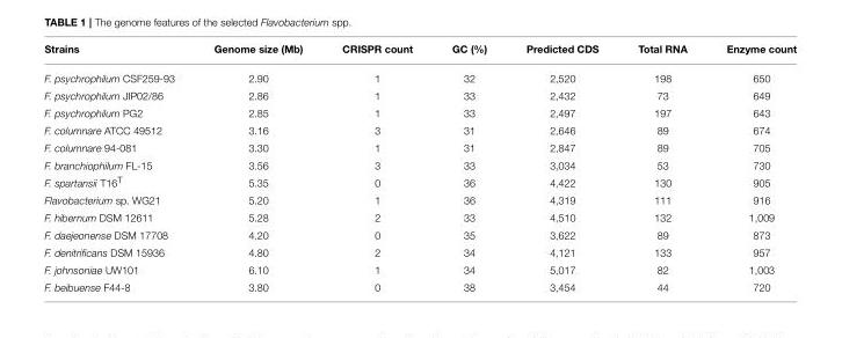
<table><thead><tr><td>Strains</td><td>Genome size (Mb)</td><td>CRISPR count</td><td>GC (%)</td><td>Predicted CDS</td><td>Total RNA</td><td>Enzyme count</td></tr></thead><tbody><tr><td>F. psychrophilum CSF259-93</td><td>2.90</td><td>1</td><td>32</td><td>2,520</td><td>198</td><td>650</td></tr><tr><td>F. psychrophilum JIP02/86</td><td>2.86</td><td>1</td><td>33</td><td>2,432</td><td>73</td><td>649</td></tr><tr><td>F. psychrophilum PG2</td><td>2.85</td><td>1</td><td>33</td><td>2,497</td><td>197</td><td>643</td></tr><tr><td>F. columnare ATCC 49512</td><td>3.16</td><td>3</td><td>31</td><td>2,646</td><td>89</td><td>674</td></tr><tr><td>F. columnare 94-081</td><td>3.30</td><td>1</td><td>31</td><td>2,847</td><td>89</td><td>705</td></tr><tr><td>F. branchiophilum FL-15</td><td>3.56</td><td>3</td><td>33</td><td>3,034</td><td>53</td><td>730</td></tr><tr><td>F. spartansii T16<sup>T</sup></td><td>5.35</td><td>0</td><td>36</td><td>4,422</td><td>130</td><td>905</td></tr><tr><td>Flavobacterium sp. WG21</td><td>5.20</td><td>1</td><td>36</td><td>4,319</td><td>111</td><td>916</td></tr><tr><td>F. hibernum DSM 12611</td><td>5.28</td><td>2</td><td>33</td><td>4,510</td><td>132</td><td>1,009</td></tr><tr><td>F. daejeonense DSM 17708</td><td>4.20</td><td>0</td><td>35</td><td>3,622</td><td>89</td><td>873</td></tr><tr><td>F. denitrificans DSM 15936</td><td>4.80</td><td>2</td><td>34</td><td>4,121</td><td>133</td><td>957</td></tr><tr><td>F. johnsoniae UW101</td><td>6.10</td><td>1</td><td>34</td><td>5,017</td><td>82</td><td>1,003</td></tr><tr><td>F. beibuense F44-8</td><td>3.80</td><td>0</td><td>38</td><td>3,454</td><td>44</td><td>720</td></tr></tbody></table>